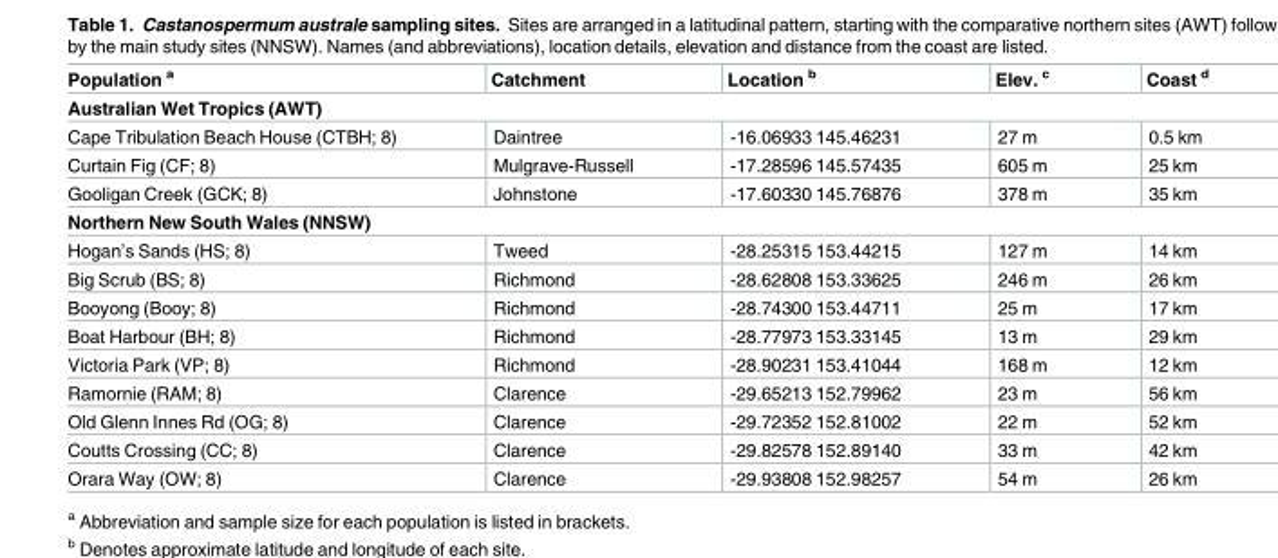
<table><thead><tr><td>Population <sup>a</sup></td><td>Catchment</td><td>Location <sup>b</sup></td><td>Elev. <sup>c</sup></td><td>Coast <sup>d</sup></td></tr></thead><tbody><tr><td colspan="5">Australian Wet Tropics (AWT)</td></tr><tr><td>Cape Tribulation Beach House (CTBH; 8)</td><td>Daintree</td><td>-16.06933 145.46231</td><td>27 m</td><td>0.5 km</td></tr><tr><td>Curtain Fig (CF; 8)</td><td>Mulgrave-Russell</td><td>-17.28596 145.57435</td><td>605 m</td><td>25 km</td></tr><tr><td>Gooligan Creek (GCK; 8)</td><td>Johnstone</td><td>-17.60330 145.76876</td><td>378 m</td><td>35 km</td></tr><tr><td colspan="5">Northern New South Wales (NNSW)</td></tr><tr><td>Hogan’s Sands (HS; 8)</td><td>Tweed</td><td>-28.25315 153.44215</td><td>127 m</td><td>14 km</td></tr><tr><td>Big Scrub (BS; 8)</td><td>Richmond</td><td>-28.62808 153.33625</td><td>246 m</td><td>26 km</td></tr><tr><td>Booyong (Booy; 8)</td><td>Richmond</td><td>-28.74300 153.44711</td><td>25 m</td><td>17 km</td></tr><tr><td>Boat Harbour (BH; 8)</td><td>Richmond</td><td>-28.77973 153.33145</td><td>13 m</td><td>29 km</td></tr><tr><td>Victoria Park (VP; 8)</td><td>Richmond</td><td>-28.90231 153.41044</td><td>168 m</td><td>12 km</td></tr><tr><td>Ramornie (RAM; 8)</td><td>Clarence</td><td>-29.65213 152.79962</td><td>23 m</td><td>56 km</td></tr><tr><td>Old Glenn Innes Rd (OG; 8)</td><td>Clarence</td><td>-29.72352 152.81002</td><td>22 m</td><td>52 km</td></tr><tr><td>Coutts Crossing (CC; 8)</td><td>Clarence</td><td>-29.82578 152.89140</td><td>33 m</td><td>42 km</td></tr><tr><td>Orara Way (OW; 8)</td><td>Clarence</td><td>-29.93808 152.98257</td><td>54 m</td><td>26 km</td></tr></tbody></table>